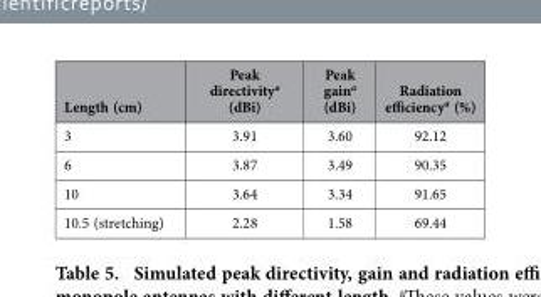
<table><thead><tr><td>Length (cm)</td><td>Peak directivity<sup>a</sup> (dBi)</td><td>Peak gain<sup>a</sup> (dBi)</td><td>Radiation efficiency<sup>a</sup> (%)</td></tr></thead><tbody><tr><td>3</td><td>3.91</td><td>3.60</td><td>92.12</td></tr><tr><td>6</td><td>3.87</td><td>3.49</td><td>90.35</td></tr><tr><td>10</td><td>3.64</td><td>3.34</td><td>91.65</td></tr><tr><td>10.5 (stretching)</td><td>2.28</td><td>1.58</td><td>69.44</td></tr></tbody></table>